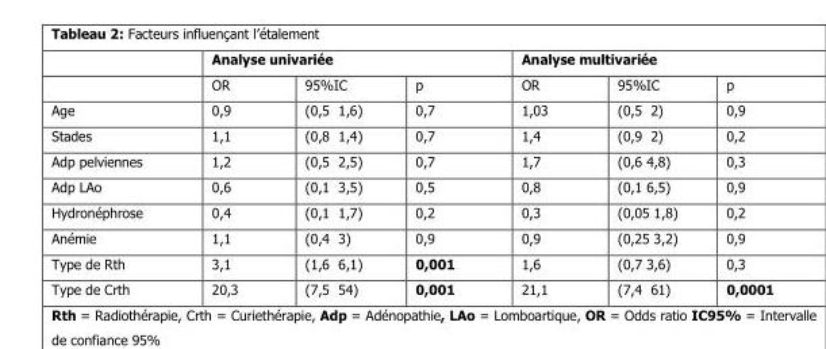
<table><thead><tr><td rowspan="2"></td><td colspan="3">Analyse univariée</td><td colspan="3">Analyse multivariée</td></tr><tr><td>OR</td><td>95%IC</td><td>p</td><td>OR</td><td>95%IC</td><td>p</td></tr></thead><tbody><tr><td>Age</td><td>0,9</td><td>(0,5 1,6)</td><td>0,7</td><td>1,03</td><td>(0,5 2)</td><td>0,9</td></tr><tr><td>Stades</td><td>1,1</td><td>(0,8 1,4)</td><td>0,7</td><td>1,4</td><td>(0,9 2)</td><td>0,2</td></tr><tr><td>Adp pelviennes</td><td>1,2</td><td>(0,5 2,5)</td><td>0,7</td><td>1,7</td><td>(0,6 4,8)</td><td>0,3</td></tr><tr><td>Adp LAo</td><td>0,6</td><td>(0,1 3,5)</td><td>0,5</td><td>0,8</td><td>(0,1 6,5)</td><td>0,9</td></tr><tr><td>Hydronéphrose</td><td>0,4</td><td>(0,1 1,7)</td><td>0,2</td><td>0,3</td><td>(0,05 1,8)</td><td>0,2</td></tr><tr><td>Anémie</td><td>1,1</td><td>(0,4 3)</td><td>0,9</td><td>0,9</td><td>(0,25 3,2)</td><td>0,9</td></tr><tr><td>Type de Rth</td><td>3,1</td><td>(1,6 6,1)</td><td>0,001</td><td>1,6</td><td>(0,7 3,6)</td><td>0,3</td></tr><tr><td>Type de Crth</td><td>20,3</td><td>(7,5 54)</td><td>0,001</td><td>21,1</td><td>(7,4 61)</td><td>0,0001</td></tr></tbody></table>